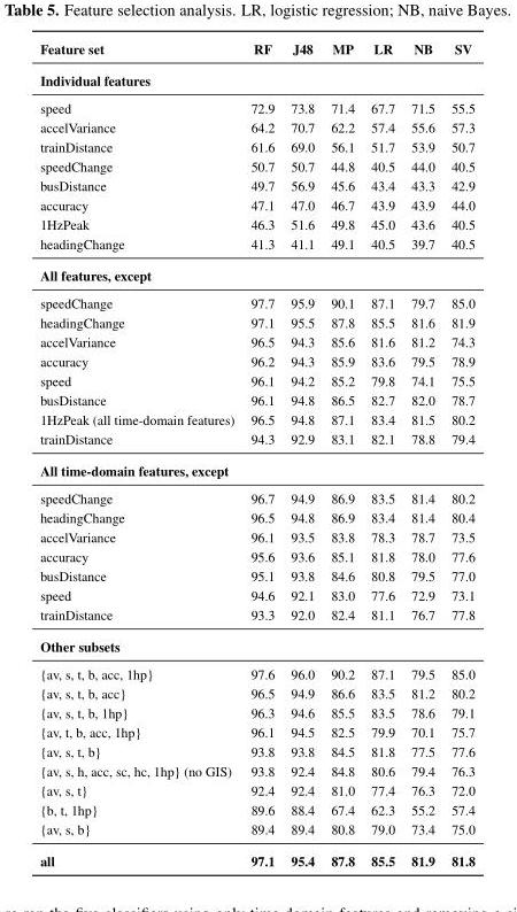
<table><thead><tr><td>Feature set</td><td>RF</td><td>J48</td><td>MP</td><td>LR</td><td>NB</td><td>SV</td></tr></thead><tbody><tr><td colspan="7">Individual features</td></tr><tr><td>speed</td><td>72.9</td><td>73.8</td><td>71.4</td><td>67.7</td><td>71.5</td><td>55.5</td></tr><tr><td>accelVariance</td><td>64.2</td><td>70.7</td><td>62.2</td><td>57.4</td><td>55.6</td><td>57.3</td></tr><tr><td>trainDistance</td><td>61.6</td><td>69.0</td><td>56.1</td><td>51.7</td><td>53.9</td><td>50.7</td></tr><tr><td>speedChange</td><td>50.7</td><td>50.7</td><td>44.8</td><td>40.5</td><td>44.0</td><td>40.5</td></tr><tr><td>busDistance</td><td>49.7</td><td>56.9</td><td>45.6</td><td>43.4</td><td>43.3</td><td>42.9</td></tr><tr><td>accuracy</td><td>47.1</td><td>47.0</td><td>46.7</td><td>43.9</td><td>43.9</td><td>44.0</td></tr><tr><td>1HzPeak</td><td>46.3</td><td>51.6</td><td>49.8</td><td>45.0</td><td>43.6</td><td>40.5</td></tr><tr><td>headingChange</td><td>41.3</td><td>41.1</td><td>49.1</td><td>40.5</td><td>39.7</td><td>40.5</td></tr><tr><td colspan="7">All features, except</td></tr><tr><td>speedChange</td><td>97.7</td><td>95.9</td><td>90.1</td><td>87.1</td><td>79.7</td><td>85.0</td></tr><tr><td>headingChange</td><td>97.1</td><td>95.5</td><td>87.8</td><td>85.5</td><td>81.6</td><td>81.9</td></tr><tr><td>accelVariance</td><td>96.5</td><td>94.3</td><td>85.6</td><td>81.6</td><td>81.2</td><td>74.3</td></tr><tr><td>accuracy</td><td>96.2</td><td>94.3</td><td>85.9</td><td>83.6</td><td>79.5</td><td>78.9</td></tr><tr><td>speed</td><td>96.1</td><td>94.2</td><td>85.2</td><td>79.8</td><td>74.1</td><td>75.5</td></tr><tr><td>busDistance</td><td>96.1</td><td>94.8</td><td>86.5</td><td>82.7</td><td>82.0</td><td>78.7</td></tr><tr><td>1HzPeak (all time-domain features)</td><td>96.5</td><td>94.8</td><td>87.1</td><td>83.4</td><td>81.5</td><td>80.2</td></tr><tr><td>trainDistance</td><td>94.3</td><td>92.9</td><td>83.1</td><td>82.1</td><td>78.8</td><td>79.4</td></tr><tr><td colspan="7">All time-domain features, except</td></tr><tr><td>speedChange</td><td>96.7</td><td>94.9</td><td>86.9</td><td>83.5</td><td>81.4</td><td>80.2</td></tr><tr><td>headingChange</td><td>96.5</td><td>94.8</td><td>86.9</td><td>83.4</td><td>81.4</td><td>80.4</td></tr><tr><td>accelVariance</td><td>96.1</td><td>93.5</td><td>83.8</td><td>78.3</td><td>78.7</td><td>73.5</td></tr><tr><td>accuracy</td><td>95.6</td><td>93.6</td><td>85.1</td><td>81.8</td><td>78.0</td><td>77.6</td></tr><tr><td>busDistance</td><td>95.1</td><td>93.8</td><td>84.6</td><td>80.8</td><td>79.5</td><td>77.0</td></tr><tr><td>speed</td><td>94.6</td><td>92.1</td><td>83.0</td><td>77.6</td><td>72.9</td><td>73.1</td></tr><tr><td>trainDistance</td><td>93.3</td><td>92.0</td><td>82.4</td><td>81.1</td><td>76.7</td><td>77.8</td></tr><tr><td colspan="7">Other subsets</td></tr><tr><td>{av, s, t, b, acc, 1hp}</td><td>97.6</td><td>96.0</td><td>90.2</td><td>87.1</td><td>79.5</td><td>85.0</td></tr><tr><td>{av, s, t, b, acc}</td><td>96.5</td><td>94.9</td><td>86.6</td><td>83.5</td><td>81.2</td><td>80.2</td></tr><tr><td>{av, s, t, b, 1hp}</td><td>96.3</td><td>94.6</td><td>85.5</td><td>83.5</td><td>78.6</td><td>79.1</td></tr><tr><td>{av, t, b, acc, 1hp}</td><td>96.1</td><td>94.5</td><td>82.5</td><td>79.9</td><td>70.1</td><td>75.7</td></tr><tr><td>{av, s, t, b}</td><td>93.8</td><td>93.8</td><td>84.5</td><td>81.8</td><td>77.5</td><td>77.6</td></tr><tr><td>{av, s, h, acc, sc, hc, 1hp} (no GIS)</td><td>93.8</td><td>92.4</td><td>84.8</td><td>80.6</td><td>79.4</td><td>76.3</td></tr><tr><td>{av, s, t}</td><td>92.4</td><td>92.4</td><td>81.0</td><td>77.4</td><td>76.3</td><td>72.0</td></tr><tr><td>{b, t, 1hp}</td><td>89.6</td><td>88.4</td><td>67.4</td><td>62.3</td><td>55.2</td><td>57.4</td></tr><tr><td>{av, s, b}</td><td>89.4</td><td>89.4</td><td>80.8</td><td>79.0</td><td>73.4</td><td>75.0</td></tr><tr><td>all</td><td>97.1</td><td>95.4</td><td>87.8</td><td>85.5</td><td>81.9</td><td>81.8</td></tr></tbody></table>